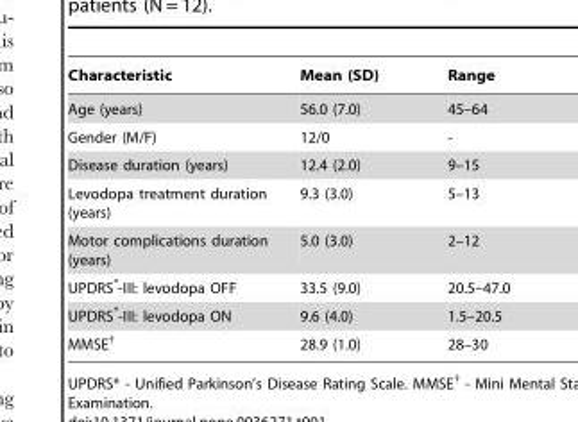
<table><thead><tr><td>Characteristic</td><td>Mean (SD)</td><td>Range</td></tr></thead><tbody><tr><td>Age (years)</td><td>56.0 (7.0)</td><td>45–64</td></tr><tr><td>Gender (M/F)</td><td>12/0</td><td>-</td></tr><tr><td>Disease duration (years)</td><td>12.4 (2.0)</td><td>9–15</td></tr><tr><td>Levodopa treatment duration (years)</td><td>9.3 (3.0)</td><td>5–13</td></tr><tr><td>Motor complications duration (years)</td><td>5.0 (3.0)</td><td>2–12</td></tr><tr><td>UPDRS*-III: levodopa OFF</td><td>33.5 (9.0)</td><td>20.5–47.0</td></tr><tr><td>UPDRS*-III: levodopa ON</td><td>9.6 (4.0)</td><td>1.5–20.5</td></tr><tr><td>MMSE<sup>†</sup></td><td>28.9 (1.0)</td><td>28–30</td></tr></tbody></table>